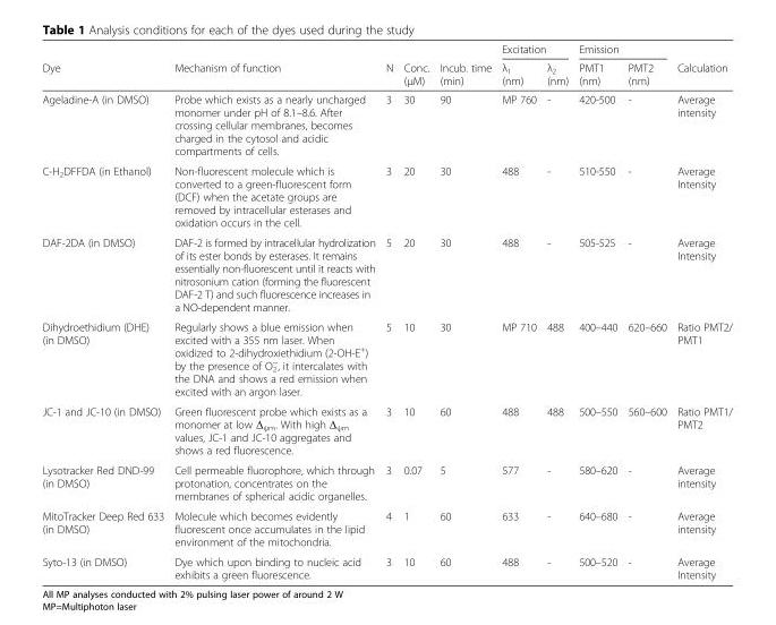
<table><thead><tr><td rowspan="2">Dye</td><td rowspan="2">Mechanism of function</td><td rowspan="2">N</td><td rowspan="2">Conc. (μM)</td><td rowspan="2">Incub. time (min)</td><td colspan="2">Excitation</td><td colspan="2">Emission</td><td rowspan="2">Calculation</td></tr><tr><td>λ<sub>1</sub> (nm)</td><td>λ<sub>2</sub> (nm)</td><td>PMT1 (nm)</td><td>PMT2 (nm)</td></tr></thead><tbody><tr><td>Ageladine-A (in DMSO)</td><td>Probe which exists as a nearly uncharged monomer under pH of 8.1–8.6. After crossing cellular membranes, becomes charged in the cytosol and acidic compartments of cells.</td><td>3</td><td>30</td><td>90</td><td>MP 760</td><td>-</td><td>420-500</td><td>-</td><td>Average intensity</td></tr><tr><td>C-H<sub>2</sub>DFFDA (in Ethanol)</td><td>Non-fluorescent molecule which is converted to a green-fluorescent form (DCF) when the acetate groups are removed by intracellular esterases and oxidation occurs in the cell.</td><td>3</td><td>20</td><td>30</td><td>488</td><td>-</td><td>510-550</td><td>-</td><td>Average Intensity</td></tr><tr><td>DAF-2DA (in DMSO)</td><td>DAF-2 is formed by intracellular hydrolization of its ester bonds by esterases. It remains essentially non-fluorescent until it reacts with nitrosonium cation (forming the fluorescent DAF-2 T) and such fluorescence increases in a NO-dependent manner.</td><td>5</td><td>20</td><td>30</td><td>488</td><td>-</td><td>505-525</td><td>-</td><td>Average Intensity</td></tr><tr><td>Dihydroethidium (DHE) (in DMSO)</td><td>Regularly shows a blue emission when excited with a 355 nm laser. When oxidized to 2-dihydroxiethidium (2-OH-E<sup>+</sup>) by the presence of O<sub>2</sub> <sup>−</sup>, it intercalates with the DNA and shows a red emission when excited with an argon laser.</td><td>5</td><td>10</td><td>30</td><td>MP 710</td><td>488</td><td>400–440</td><td>620–660</td><td>Ratio PMT2/ PMT1</td></tr><tr><td>JC-1 and JC-10 (in DMSO)</td><td>Green fluorescent probe which exists as a monomer at low Δ<sub>ψm</sub>. With high Δ<sub>ψm</sub> values, JC-1 and JC-10 aggregates and shows a red fluorescence.</td><td>3</td><td>10</td><td>60</td><td>488</td><td>488</td><td>500–550</td><td>560–600</td><td>Ratio PMT1/ PMT2</td></tr><tr><td>Lysotracker Red DND-99 (in DMSO)</td><td>Cell permeable fluorophore, which through protonation, concentrates on the membranes of spherical acidic organelles.</td><td>3</td><td>0.07</td><td>5</td><td>577</td><td>-</td><td>580–620</td><td>-</td><td>Average intensity</td></tr><tr><td>MitoTracker Deep Red 633 (in DMSO)</td><td>Molecule which becomes evidently fluorescent once accumulates in the lipid environment of the mitochondria.</td><td>4</td><td>1</td><td>60</td><td>633</td><td>-</td><td>640–680</td><td>-</td><td>Average intensity</td></tr><tr><td>Syto-13 (in DMSO)</td><td>Dye which upon binding to nucleic acid exhibits a green fluorescence.</td><td>3</td><td>10</td><td>60</td><td>488</td><td>-</td><td>500–520</td><td>-</td><td>Average Intensity</td></tr></tbody></table>